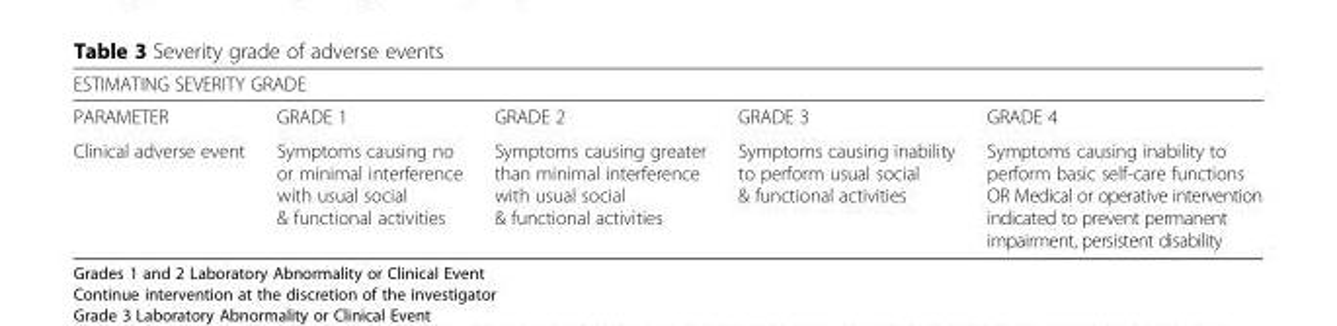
<table><thead><tr><td colspan="5">ESTIMATING SEVERITY GRADE</td></tr><tr><td>PARAMETER</td><td>GRADE 1</td><td>GRADE 2</td><td>GRADE 3</td><td>GRADE 4</td></tr></thead><tbody><tr><td>Clinical adverse event</td><td>Symptoms causing no or minimal interference with usual social &amp; functional activities</td><td>Symptoms causing greater than minimal interference with usual social &amp; functional activities</td><td>Symptoms causing inability to perform usual social &amp; functional activities</td><td>Symptoms causing inability to perform basic self-care functions OR Medical or operative intervention indicated to prevent permanent impairment, persistent disability</td></tr></tbody></table>